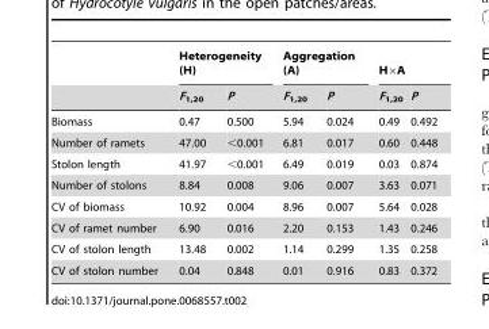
<table><thead><tr><td rowspan="2"></td><td colspan="2">Heterogeneity (H)</td><td colspan="2">Aggregation (A)</td><td colspan="2">H×A</td></tr><tr><td>F<sub>1,20</sub></td><td>P</td><td>F<sub>1,20</sub></td><td>P</td><td>F<sub>1,20</sub></td><td>P</td></tr></thead><tbody><tr><td>Biomass</td><td>0.47</td><td>0.500</td><td>5.94</td><td>0.024</td><td>0.49</td><td>0.492</td></tr><tr><td>Number of ramets</td><td>47.00</td><td>&lt;0.001</td><td>6.81</td><td>0.017</td><td>0.60</td><td>0.448</td></tr><tr><td>Stolon length</td><td>41.97</td><td>&lt;0.001</td><td>6.49</td><td>0.019</td><td>0.03</td><td>0.874</td></tr><tr><td>Number of stolons</td><td>8.84</td><td>0.008</td><td>9.06</td><td>0.007</td><td>3.63</td><td>0.071</td></tr><tr><td>CV of biomass</td><td>10.92</td><td>0.004</td><td>8.96</td><td>0.007</td><td>5.64</td><td>0.028</td></tr><tr><td>CV of ramet number</td><td>6.90</td><td>0.016</td><td>2.20</td><td>0.153</td><td>1.43</td><td>0.246</td></tr><tr><td>CV of stolon length</td><td>13.48</td><td>0.002</td><td>1.14</td><td>0.299</td><td>1.35</td><td>0.258</td></tr><tr><td>CV of stolon number</td><td>0.04</td><td>0.848</td><td>0.01</td><td>0.916</td><td>0.83</td><td>0.372</td></tr></tbody></table>